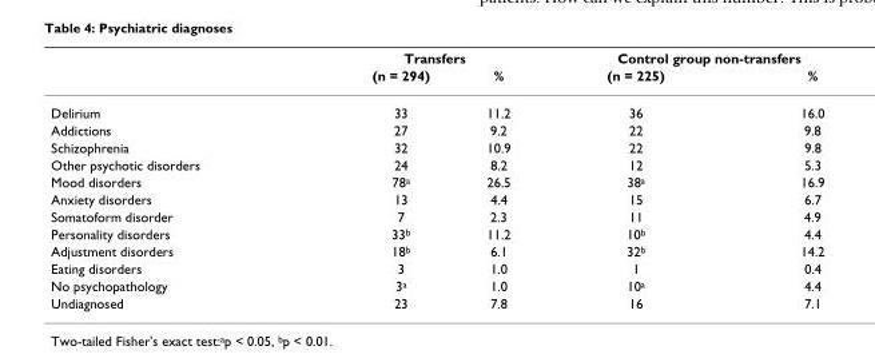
<table><thead><tr><td rowspan="2"></td><td colspan="2">Transfers</td><td colspan="2">Control group non-transfers</td></tr><tr><td>(n = 294)</td><td>%</td><td>(n = 225)</td><td>%</td></tr></thead><tbody><tr><td>Delirium</td><td>33</td><td>11.2</td><td>36</td><td>16.0</td></tr><tr><td>Addictions</td><td>27</td><td>9.2</td><td>22</td><td>9.8</td></tr><tr><td>Schizophrenia</td><td>32</td><td>10.9</td><td>22</td><td>9.8</td></tr><tr><td>Other psychotic disorders</td><td>24</td><td>8.2</td><td>12</td><td>5.3</td></tr><tr><td>Mood disorders</td><td>78<sup>a</sup></td><td>26.5</td><td>38<sup>a</sup></td><td>16.9</td></tr><tr><td>Anxiety disorders</td><td>13</td><td>4.4</td><td>15</td><td>6.7</td></tr><tr><td>Somatoform disorder</td><td>7</td><td>2.3</td><td>11</td><td>4.9</td></tr><tr><td>Personality disorders</td><td>33<sup>b</sup></td><td>11.2</td><td>10<sup>b</sup></td><td>4.4</td></tr><tr><td>Adjustment disorders</td><td>18<sup>b</sup></td><td>6.1</td><td>32<sup>b</sup></td><td>14.2</td></tr><tr><td>Eating disorders</td><td>3</td><td>1.0</td><td>1</td><td>0.4</td></tr><tr><td>No psychopathology</td><td>3<sup>a</sup></td><td>1.0</td><td>10<sup>a</sup></td><td>4.4</td></tr><tr><td>Undiagnosed</td><td>23</td><td>7.8</td><td>16</td><td>7.1</td></tr></tbody></table>